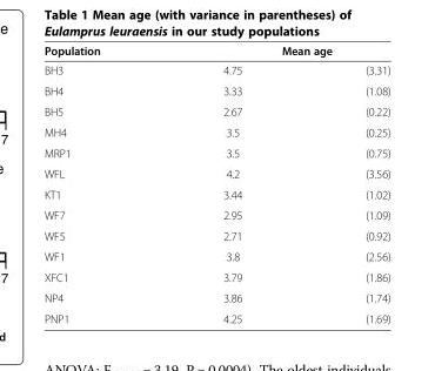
<table><thead><tr><td rowspan="2">Population BH3</td><td colspan="2">Mean age</td></tr><tr><td>4.75</td><td>(3.31)</td></tr></thead><tbody><tr><td>BH4</td><td>3.33</td><td>(1.08)</td></tr><tr><td>BH5</td><td>2.67</td><td>(0.22)</td></tr><tr><td>MH4</td><td>3.5</td><td>(0.25)</td></tr><tr><td>MRP1</td><td>3.5</td><td>(0.75)</td></tr><tr><td>WFL</td><td>4.2</td><td>(3.56)</td></tr><tr><td>KT1</td><td>3.44</td><td>(1.02)</td></tr><tr><td>WF7</td><td>2.95</td><td>(1.09)</td></tr><tr><td>WF5</td><td>2.71</td><td>(0.92)</td></tr><tr><td>WF1</td><td>3.8</td><td>(2.56)</td></tr><tr><td>XFC1</td><td>3.79</td><td>(1.86)</td></tr><tr><td>NP4</td><td>3.86</td><td>(1.74)</td></tr><tr><td>PNP1</td><td>4.25</td><td>(1.69)</td></tr></tbody></table>